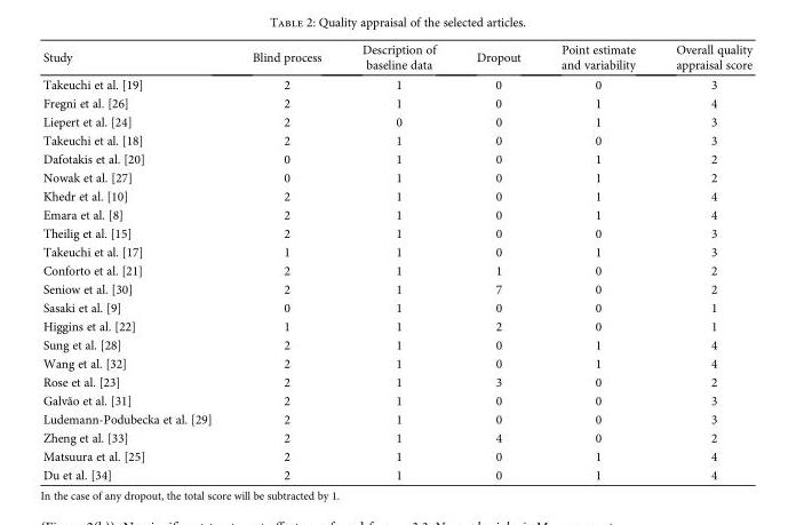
<table><thead><tr><td>Study</td><td>Blind process</td><td>Description of baseline data</td><td>Dropout</td><td>Point estimate and variability</td><td>Overall quality appraisal score</td></tr></thead><tbody><tr><td>Takeuchi et al. [19]</td><td>2</td><td>1</td><td>0</td><td>0</td><td>3</td></tr><tr><td>Fregni et al. [26]</td><td>2</td><td>1</td><td>0</td><td>1</td><td>4</td></tr><tr><td>Liepert et al. [24]</td><td>2</td><td>0</td><td>0</td><td>1</td><td>3</td></tr><tr><td>Takeuchi et al. [18]</td><td>2</td><td>1</td><td>0</td><td>0</td><td>3</td></tr><tr><td>Dafotakis et al. [20]</td><td>0</td><td>1</td><td>0</td><td>1</td><td>2</td></tr><tr><td>Nowak et al. [27]</td><td>0</td><td>1</td><td>0</td><td>1</td><td>2</td></tr><tr><td>Khedr et al. [10]</td><td>2</td><td>1</td><td>0</td><td>1</td><td>4</td></tr><tr><td>Emara et al. [8]</td><td>2</td><td>1</td><td>0</td><td>1</td><td>4</td></tr><tr><td>Theilig et al. [15]</td><td>2</td><td>1</td><td>0</td><td>0</td><td>3</td></tr><tr><td>Takeuchi et al. [17]</td><td>1</td><td>1</td><td>0</td><td>1</td><td>3</td></tr><tr><td>Conforto et al. [21]</td><td>2</td><td>1</td><td>1</td><td>0</td><td>2</td></tr><tr><td>Seniow et al. [30]</td><td>2</td><td>1</td><td>7</td><td>0</td><td>2</td></tr><tr><td>Sasaki et al. [9]</td><td>0</td><td>1</td><td>0</td><td>0</td><td>1</td></tr><tr><td>Higgins et al. [22]</td><td>1</td><td>1</td><td>2</td><td>0</td><td>1</td></tr><tr><td>Sung et al. [28]</td><td>2</td><td>1</td><td>0</td><td>1</td><td>4</td></tr><tr><td>Wang et al. [32]</td><td>2</td><td>1</td><td>0</td><td>1</td><td>4</td></tr><tr><td>Rose et al. [23]</td><td>2</td><td>1</td><td>3</td><td>0</td><td>2</td></tr><tr><td>Galvão et al. [31]</td><td>2</td><td>1</td><td>0</td><td>0</td><td>3</td></tr><tr><td>Ludemann-Podubecka et al. [29]</td><td>2</td><td>1</td><td>0</td><td>0</td><td>3</td></tr><tr><td>Zheng et al. [33]</td><td>2</td><td>1</td><td>4</td><td>0</td><td>2</td></tr><tr><td>Matsuura et al. [25]</td><td>2</td><td>1</td><td>0</td><td>1</td><td>4</td></tr><tr><td>Du et al. [34]</td><td>2</td><td>1</td><td>0</td><td>1</td><td>4</td></tr></tbody></table>